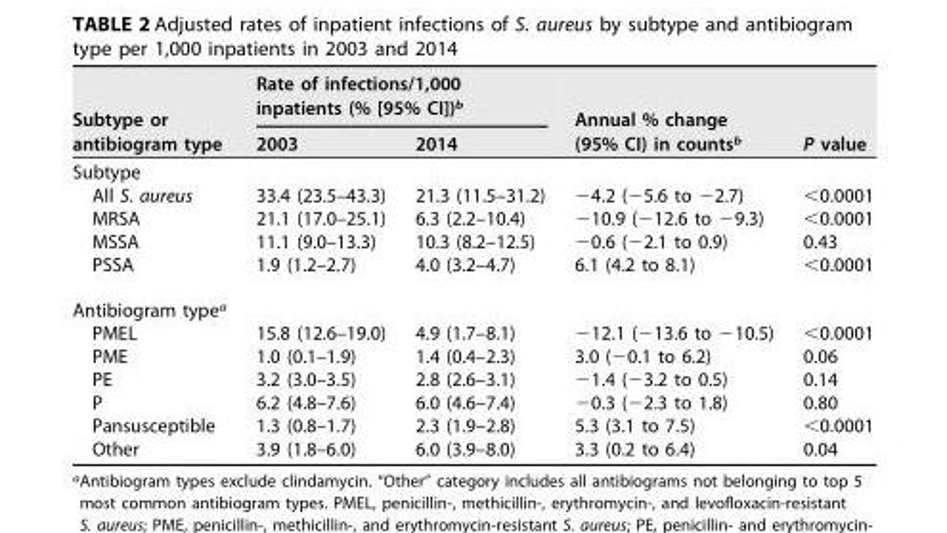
<table><thead><tr><td rowspan="2">Subtype or antibiogram type</td><td colspan="2">Rate of infections/1,000 inpatients (% [95% CI])<sup>b</sup></td><td rowspan="2">Annual % change (95% CI) in counts<sup>b</sup></td><td rowspan="2">P value</td></tr><tr><td>2003</td><td>2014</td></tr></thead><tbody><tr><td colspan="5">Subtype</td></tr><tr><td>All S. aureus</td><td>33.4 (23.5–43.3)</td><td>21.3 (11.5–31.2)</td><td>−4.2 (−5.6 to −2.7)</td><td>&lt;0.0001</td></tr><tr><td>MRSA</td><td>21.1 (17.0–25.1)</td><td>6.3 (2.2–10.4)</td><td>−10.9 (−12.6 to −9.3)</td><td>&lt;0.0001</td></tr><tr><td>MSSA</td><td>11.1 (9.0–13.3)</td><td>10.3 (8.2–12.5)</td><td>−0.6 (−2.1 to 0.9)</td><td>0.43</td></tr><tr><td>PSSA</td><td>1.9 (1.2–2.7)</td><td>4.0 (3.2–4.7)</td><td>6.1 (4.2 to 8.1)</td><td>&lt;0.0001</td></tr><tr><td colspan="5">Antibiogram type<sup>a</sup></td></tr><tr><td>PMEL</td><td>15.8 (12.6–19.0)</td><td>4.9 (1.7–8.1)</td><td>−12.1 (−13.6 to −10.5)</td><td>&lt;0.0001</td></tr><tr><td>PME</td><td>1.0 (0.1–1.9)</td><td>1.4 (0.4–2.3)</td><td>3.0 (−0.1 to 6.2)</td><td>0.06</td></tr><tr><td>PE</td><td>3.2 (3.0–3.5)</td><td>2.8 (2.6–3.1)</td><td>−1.4 (−3.2 to 0.5)</td><td>0.14</td></tr><tr><td>P</td><td>6.2 (4.8–7.6)</td><td>6.0 (4.6–7.4)</td><td>−0.3 (−2.3 to 1.8)</td><td>0.80</td></tr><tr><td>Pansusceptible</td><td>1.3 (0.8–1.7)</td><td>2.3 (1.9–2.8)</td><td>5.3 (3.1 to 7.5)</td><td>&lt;0.0001</td></tr><tr><td>Other</td><td>3.9 (1.8–6.0)</td><td>6.0 (3.9–8.0)</td><td>3.3 (0.2 to 6.4)</td><td>0.04</td></tr></tbody></table>